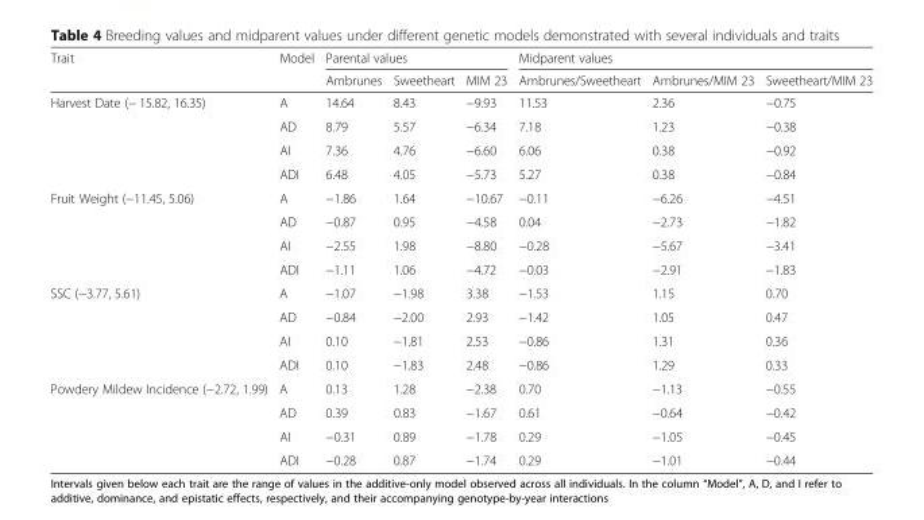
<table><thead><tr><td rowspan="2">Trait</td><td rowspan="2">Model</td><td colspan="3">Parental values</td><td colspan="3">Midparent values</td></tr><tr><td>Ambrunes</td><td>Sweetheart</td><td>MIM 23</td><td>Ambrunes/Sweetheart</td><td>Ambrunes/MIM 23</td><td>Sweetheart/MIM 23</td></tr></thead><tbody><tr><td rowspan="4">Harvest Date (− 15.82, 16.35)</td><td>A</td><td>14.64</td><td>8.43</td><td>−9.93</td><td>11.53</td><td>2.36</td><td>−0.75</td></tr><tr><td>AD</td><td>8.79</td><td>5.57</td><td>−6.34</td><td>7.18</td><td>1.23</td><td>−0.38</td></tr><tr><td>AI</td><td>7.36</td><td>4.76</td><td>−6.60</td><td>6.06</td><td>0.38</td><td>−0.92</td></tr><tr><td>ADI</td><td>6.48</td><td>4.05</td><td>−5.73</td><td>5.27</td><td>0.38</td><td>−0.84</td></tr><tr><td rowspan="4">Fruit Weight (−11.45, 5.06)</td><td>A</td><td>−1.86</td><td>1.64</td><td>−10.67</td><td>−0.11</td><td>−6.26</td><td>−4.51</td></tr><tr><td>AD</td><td>−0.87</td><td>0.95</td><td>−4.58</td><td>0.04</td><td>−2.73</td><td>−1.82</td></tr><tr><td>AI</td><td>−2.55</td><td>1.98</td><td>−8.80</td><td>−0.28</td><td>−5.67</td><td>−3.41</td></tr><tr><td>ADI</td><td>−1.11</td><td>1.06</td><td>−4.72</td><td>−0.03</td><td>−2.91</td><td>−1.83</td></tr><tr><td rowspan="4">SSC (−3.77, 5.61)</td><td>A</td><td>−1.07</td><td>−1.98</td><td>3.38</td><td>−1.53</td><td>1.15</td><td>0.70</td></tr><tr><td>AD</td><td>−0.84</td><td>−2.00</td><td>2.93</td><td>−1.42</td><td>1.05</td><td>0.47</td></tr><tr><td>AI</td><td>0.10</td><td>−1.81</td><td>2.53</td><td>−0.86</td><td>1.31</td><td>0.36</td></tr><tr><td>ADI</td><td>0.10</td><td>−1.83</td><td>2.48</td><td>−0.86</td><td>1.29</td><td>0.33</td></tr><tr><td rowspan="4">Powdery Mildew Incidence (−2.72, 1.99)</td><td>A</td><td>0.13</td><td>1.28</td><td>−2.38</td><td>0.70</td><td>−1.13</td><td>−0.55</td></tr><tr><td>AD</td><td>0.39</td><td>0.83</td><td>−1.67</td><td>0.61</td><td>−0.64</td><td>−0.42</td></tr><tr><td>AI</td><td>−0.31</td><td>0.89</td><td>−1.78</td><td>0.29</td><td>−1.05</td><td>−0.45</td></tr><tr><td>ADI</td><td>−0.28</td><td>0.87</td><td>−1.74</td><td>0.29</td><td>−1.01</td><td>−0.44</td></tr></tbody></table>